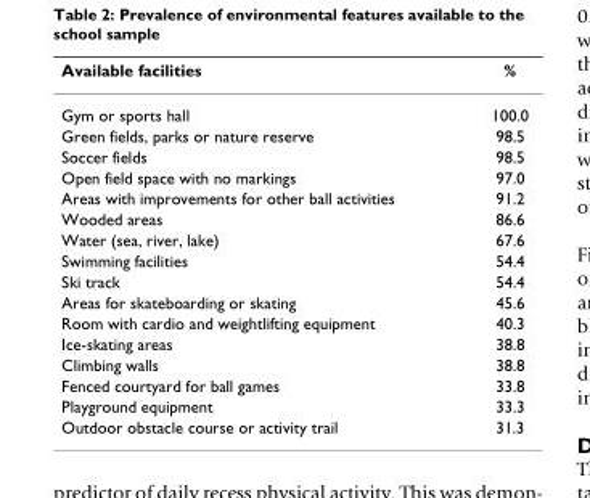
<table><thead><tr><td>Available facilities</td><td>%</td></tr></thead><tbody><tr><td>Gym or sports hall</td><td>100.0</td></tr><tr><td>Green fields, parks or nature reserve</td><td>98.5</td></tr><tr><td>Soccer fields</td><td>98.5</td></tr><tr><td>Open field space with no markings</td><td>97.0</td></tr><tr><td>Areas with improvements for other ball activities</td><td>91.2</td></tr><tr><td>Wooded areas</td><td>86.6</td></tr><tr><td>Water (sea, river, lake)</td><td>67.6</td></tr><tr><td>Swimming facilities</td><td>54.4</td></tr><tr><td>Ski track</td><td>54.4</td></tr><tr><td>Areas for skateboarding or skating</td><td>45.6</td></tr><tr><td>Room with cardio and weightlifting equipment</td><td>40.3</td></tr><tr><td>Ice-skating areas</td><td>38.8</td></tr><tr><td>Climbing walls</td><td>38.8</td></tr><tr><td>Fenced courtyard for ball games</td><td>33.8</td></tr><tr><td>Playground equipment</td><td>33.3</td></tr><tr><td>Outdoor obstacle course or activity trail</td><td>31.3</td></tr></tbody></table>